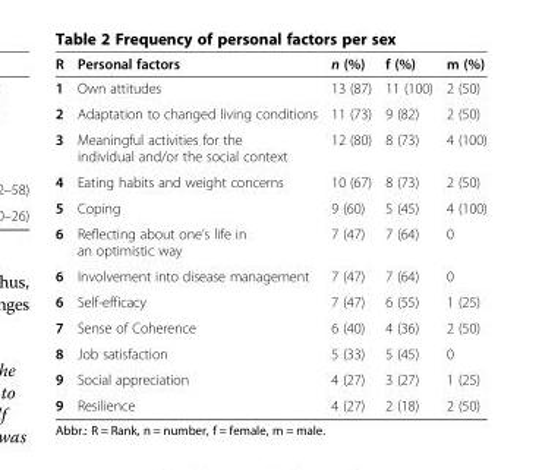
<table><thead><tr><td>R</td><td>Personal factors</td><td>n (%)</td><td>f (%)</td><td>m (%)</td></tr></thead><tbody><tr><td>1</td><td>Own attitudes</td><td>13 (87)</td><td>11 (100)</td><td>2 (50)</td></tr><tr><td>2</td><td>Adaptation to changed living conditions</td><td>11 (73)</td><td>9 (82)</td><td>2 (50)</td></tr><tr><td>3</td><td>Meaningful activities for the individual and/or the social context</td><td>12 (80)</td><td>8 (73)</td><td>4 (100)</td></tr><tr><td>4</td><td>Eating habits and weight concerns</td><td>10 (67)</td><td>8 (73)</td><td>2 (50)</td></tr><tr><td>5</td><td>Coping</td><td>9 (60)</td><td>5 (45)</td><td>4 (100)</td></tr><tr><td>6</td><td>Reflecting about one’s life in an optimistic way</td><td>7 (47)</td><td>7 (64)</td><td>0</td></tr><tr><td>6</td><td>Involvement into disease management</td><td>7 (47)</td><td>7 (64)</td><td>0</td></tr><tr><td>6</td><td>Self-efficacy</td><td>7 (47)</td><td>6 (55)</td><td>1 (25)</td></tr><tr><td>7</td><td>Sense of Coherence</td><td>6 (40)</td><td>4 (36)</td><td>2 (50)</td></tr><tr><td>8</td><td>Job satisfaction</td><td>5 (33)</td><td>5 (45)</td><td>0</td></tr><tr><td>9</td><td>Social appreciation</td><td>4 (27)</td><td>3 (27)</td><td>1 (25)</td></tr><tr><td>9</td><td>Resilience</td><td>4 (27)</td><td>2 (18)</td><td>2 (50)</td></tr></tbody></table>